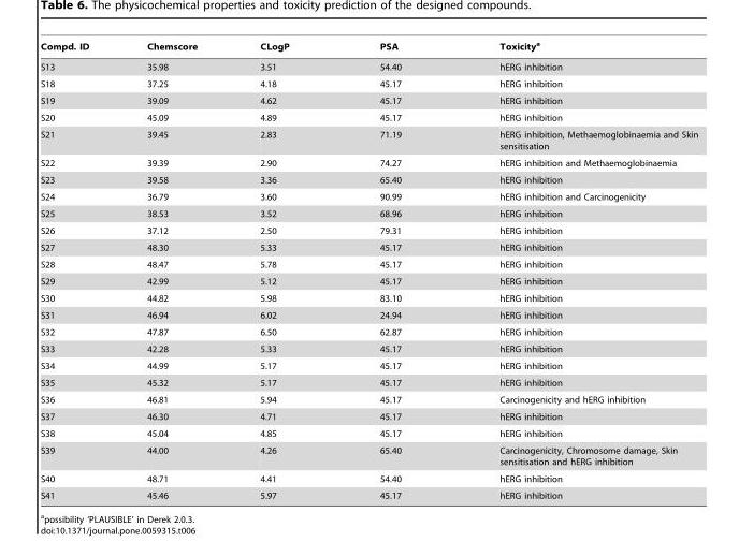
<table><thead><tr><td>Compd. ID</td><td>Chemscore</td><td>CLogP</td><td>PSA</td><td>Toxicity<sup>a</sup></td></tr></thead><tbody><tr><td>S13</td><td>35.98</td><td>3.51</td><td>54.40</td><td>hERG inhibition</td></tr><tr><td>S18</td><td>37.25</td><td>4.18</td><td>45.17</td><td>hERG inhibition</td></tr><tr><td>S19</td><td>39.09</td><td>4.62</td><td>45.17</td><td>hERG inhibition</td></tr><tr><td>S20</td><td>45.09</td><td>4.89</td><td>45.17</td><td>hERG inhibition</td></tr><tr><td>S21</td><td>39.45</td><td>2.83</td><td>71.19</td><td>hERG inhibition, Methaemoglobinaemia and Skin sensitisation</td></tr><tr><td>S22</td><td>39.39</td><td>2.90</td><td>74.27</td><td>hERG inhibition and Methaemoglobinaemia</td></tr><tr><td>S23</td><td>39.58</td><td>3.36</td><td>65.40</td><td>hERG inhibition</td></tr><tr><td>S24</td><td>36.79</td><td>3.60</td><td>90.99</td><td>hERG inhibition and Carcinogenicity</td></tr><tr><td>S25</td><td>38.53</td><td>3.52</td><td>68.96</td><td>hERG inhibition</td></tr><tr><td>S26</td><td>37.12</td><td>2.50</td><td>79.31</td><td>hERG inhibition</td></tr><tr><td>S27</td><td>48.30</td><td>5.33</td><td>45.17</td><td>hERG inhibition</td></tr><tr><td>S28</td><td>48.47</td><td>5.78</td><td>45.17</td><td>hERG inhibition</td></tr><tr><td>S29</td><td>42.99</td><td>5.12</td><td>45.17</td><td>hERG inhibition</td></tr><tr><td>S30</td><td>44.82</td><td>5.98</td><td>83.10</td><td>hERG inhibition</td></tr><tr><td>S31</td><td>46.94</td><td>6.02</td><td>24.94</td><td>hERG inhibition</td></tr><tr><td>S32</td><td>47.87</td><td>6.50</td><td>62.87</td><td>hERG inhibition</td></tr><tr><td>S33</td><td>42.28</td><td>5.33</td><td>45.17</td><td>hERG inhibition</td></tr><tr><td>S34</td><td>44.99</td><td>5.17</td><td>45.17</td><td>hERG inhibition</td></tr><tr><td>S35</td><td>45.32</td><td>5.17</td><td>45.17</td><td>hERG inhibition</td></tr><tr><td>S36</td><td>46.81</td><td>5.94</td><td>45.17</td><td>Carcinogenicity and hERG inhibition</td></tr><tr><td>S37</td><td>46.30</td><td>4.71</td><td>45.17</td><td>hERG inhibition</td></tr><tr><td>S38</td><td>45.04</td><td>4.85</td><td>45.17</td><td>hERG inhibition</td></tr><tr><td>S39</td><td>44.00</td><td>4.26</td><td>65.40</td><td>Carcinogenicity, Chromosome damage, Skin sensitisation and hERG inhibition</td></tr><tr><td>S40</td><td>48.71</td><td>4.41</td><td>54.40</td><td>hERG inhibition</td></tr><tr><td>S41</td><td>45.46</td><td>5.97</td><td>45.17</td><td>hERG inhibition</td></tr></tbody></table>